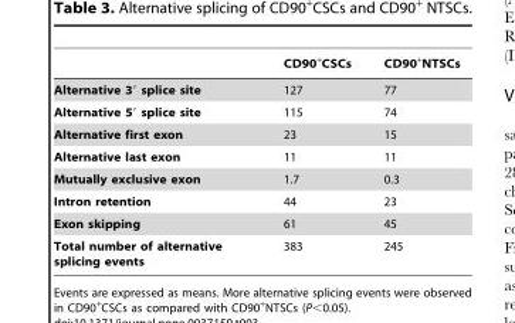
<table><thead><tr><td></td><td>CD90<sup>+</sup>CSCs</td><td>CD90<sup>+</sup>NTSCs</td></tr></thead><tbody><tr><td>Alternative 3′ splice site</td><td>127</td><td>77</td></tr><tr><td>Alternative 5′ splice site</td><td>115</td><td>74</td></tr><tr><td>Alternative first exon</td><td>23</td><td>15</td></tr><tr><td>Alternative last exon</td><td>11</td><td>11</td></tr><tr><td>Mutually exclusive exon</td><td>1.7</td><td>0.3</td></tr><tr><td>Intron retention</td><td>44</td><td>23</td></tr><tr><td>Exon skipping</td><td>61</td><td>45</td></tr><tr><td>Total number of alternative splicing events</td><td>383</td><td>245</td></tr></tbody></table>